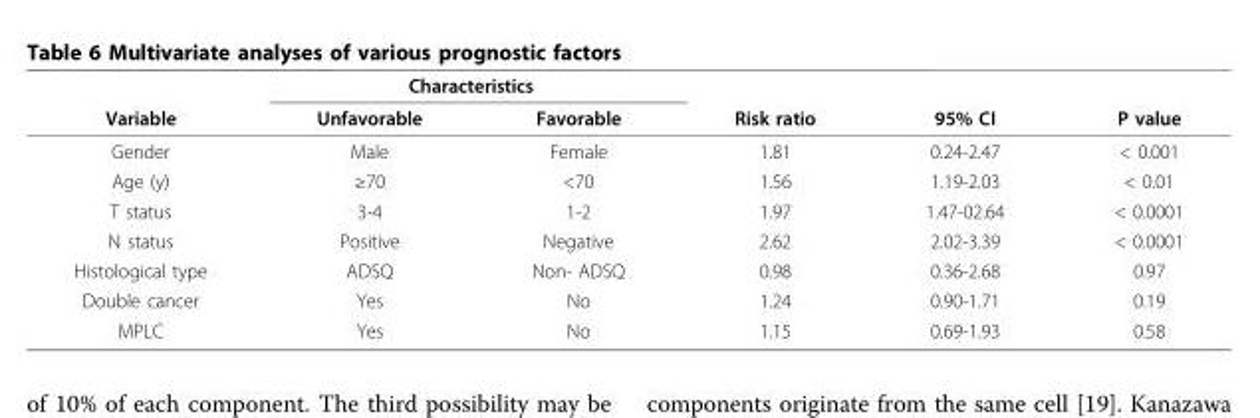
<table><thead><tr><td rowspan="2">Variable</td><td colspan="2">Characteristics</td><td rowspan="2">Risk ratio</td><td rowspan="2">95% CI</td><td rowspan="2">P value</td></tr><tr><td>Unfavorable</td><td>Favorable</td></tr></thead><tbody><tr><td>Gender</td><td>Male</td><td>Female</td><td>1.81</td><td>0.24-2.47</td><td>&lt; 0.001</td></tr><tr><td>Age (y)</td><td>≥70</td><td>&lt;70</td><td>1.56</td><td>1.19-2.03</td><td>&lt; 0.01</td></tr><tr><td>T status</td><td>3-4</td><td>1-2</td><td>1.97</td><td>1.47-02.64</td><td>&lt; 0.0001</td></tr><tr><td>N status</td><td>Positive</td><td>Negative</td><td>2.62</td><td>2.02-3.39</td><td>&lt; 0.0001</td></tr><tr><td>Histological type</td><td>ADSQ</td><td>Non- ADSQ</td><td>0.98</td><td>0.36-2.68</td><td>0.97</td></tr><tr><td>Double cancer</td><td>Yes</td><td>No</td><td>1.24</td><td>0.90-1.71</td><td>0.19</td></tr><tr><td>MPLC</td><td>Yes</td><td>No</td><td>1.15</td><td>0.69-1.93</td><td>0.58</td></tr></tbody></table>